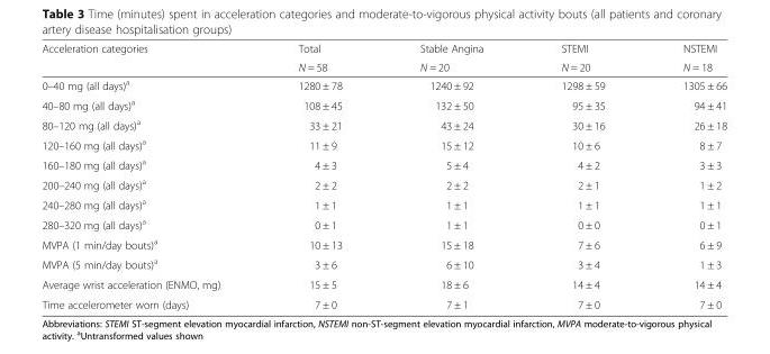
<table><thead><tr><td rowspan="2">Acceleration categories</td><td rowspan="2">Total N = 58</td><td rowspan="2">Stable Angina N = 20</td><td rowspan="2">STEMI N = 20</td><td rowspan="2">NSTEMI N = 18</td></tr><tr></tr></thead><tbody><tr><td>0–40 mg (all days)<sup>a</sup></td><td>1280 ± 78</td><td>1240 ± 92</td><td>1298 ± 59</td><td>1305 ± 66</td></tr><tr><td>40–80 mg (all days)<sup>a</sup></td><td>108 ± 45</td><td>132 ± 50</td><td>95 ± 35</td><td>94 ± 41</td></tr><tr><td>80–120 mg (all days)<sup>a</sup></td><td>33 ± 21</td><td>43 ± 24</td><td>30 ± 16</td><td>26 ± 18</td></tr><tr><td>120–160 mg (all days)<sup>a</sup></td><td>11 ± 9</td><td>15 ± 12</td><td>10 ± 6</td><td>8 ± 7</td></tr><tr><td>160–180 mg (all days)<sup>a</sup></td><td>4 ± 3</td><td>5 ± 4</td><td>4 ± 2</td><td>3 ± 3</td></tr><tr><td>200–240 mg (all days)<sup>a</sup></td><td>2 ± 2</td><td>2 ± 2</td><td>2 ± 1</td><td>1 ± 2</td></tr><tr><td>240–280 mg (all days)<sup>a</sup></td><td>1 ± 1</td><td>1 ± 1</td><td>1 ± 1</td><td>1 ± 1</td></tr><tr><td>280–320 mg (all days)<sup>a</sup></td><td>0 ± 1</td><td>1 ± 1</td><td>0 ± 0</td><td>0 ± 1</td></tr><tr><td>MVPA (1 min/day bouts)<sup>a</sup></td><td>10 ± 13</td><td>15 ± 18</td><td>7 ± 6</td><td>6 ± 9</td></tr><tr><td>MVPA (5 min/day bouts)<sup>a</sup></td><td>3 ± 6</td><td>6 ± 10</td><td>3 ± 4</td><td>1 ± 3</td></tr><tr><td>Average wrist acceleration (ENMO, mg)</td><td>15 ± 5</td><td>18 ± 6</td><td>14 ± 4</td><td>14 ± 4</td></tr><tr><td>Time accelerometer worn (days)</td><td>7 ± 0</td><td>7 ± 1</td><td>7 ± 0</td><td>7 ± 0</td></tr></tbody></table>